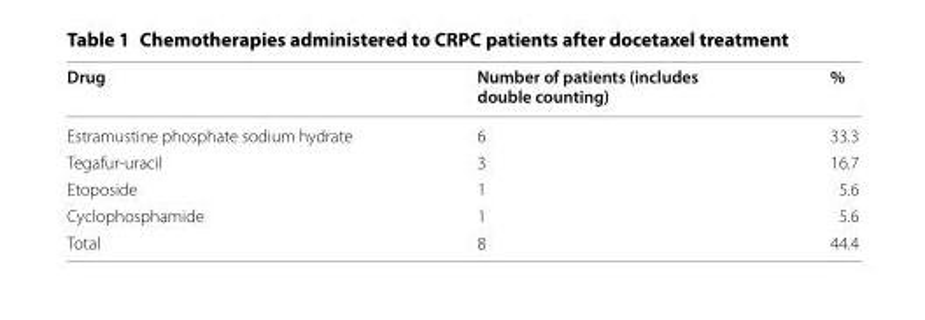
<table><thead><tr><td>Drug</td><td>Number of patients (includes double counting)</td><td>%</td></tr></thead><tbody><tr><td>Estramustine phosphate sodium hydrate</td><td>6</td><td>33.3</td></tr><tr><td>Tegafur-uracil</td><td>3</td><td>16.7</td></tr><tr><td>Etoposide</td><td>1</td><td>5.6</td></tr><tr><td>Cyclophosphamide</td><td>1</td><td>5.6</td></tr><tr><td>Total</td><td>8</td><td>44.4</td></tr></tbody></table>